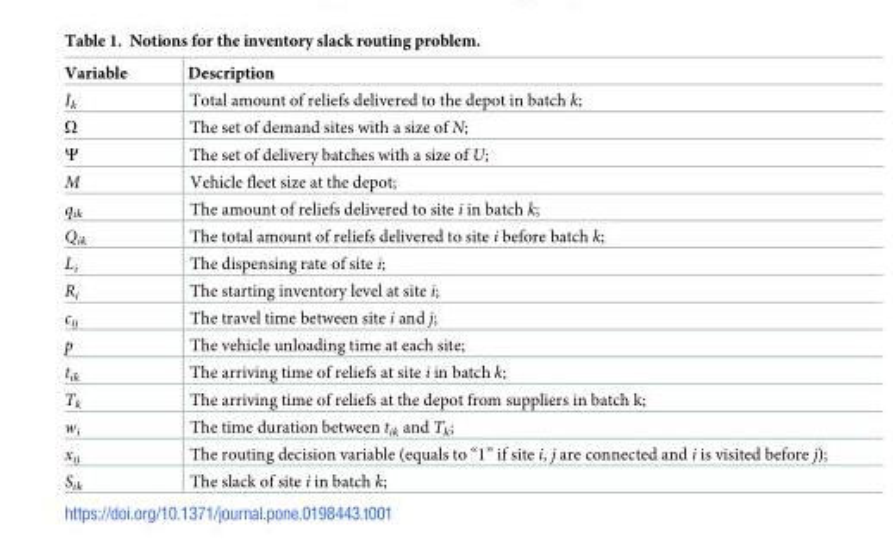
<table><thead><tr><td>Variable</td><td>Description</td></tr></thead><tbody><tr><td>I<sub>k</sub></td><td>Total amount of reliefs delivered to the depot in batch k;</td></tr><tr><td>Ω</td><td>The set of demand sites with a size of N;</td></tr><tr><td>Ψ</td><td>The set of delivery batches with a size of U;</td></tr><tr><td>M</td><td>Vehicle fleet size at the depot;</td></tr><tr><td>q<sub>ik</sub></td><td>The amount of reliefs delivered to site i in batch k;</td></tr><tr><td>Q<sub>ik</sub></td><td>The total amount of reliefs delivered to site i before batch k;</td></tr><tr><td>L<sub>i</sub></td><td>The dispensing rate of site i;</td></tr><tr><td>R<sub>i</sub></td><td>The starting inventory level at site i;</td></tr><tr><td>c<sub>ij</sub></td><td>The travel time between site i and j;</td></tr><tr><td>p</td><td>The vehicle unloading time at each site;</td></tr><tr><td>t<sub>ik</sub></td><td>The arriving time of reliefs at site i in batch k;</td></tr><tr><td>T<sub>k</sub></td><td>The arriving time of reliefs at the depot from suppliers in batch k;</td></tr><tr><td>w<sub>i</sub></td><td>The time duration between t<sub>ik</sub> and T<sub>k</sub>;</td></tr><tr><td>x<sub>ij</sub></td><td>The routing decision variable (equals to “1” if site i, j are connected and i is visited before j);</td></tr><tr><td>S<sub>ik</sub></td><td>The slack of site i in batch k;</td></tr></tbody></table>